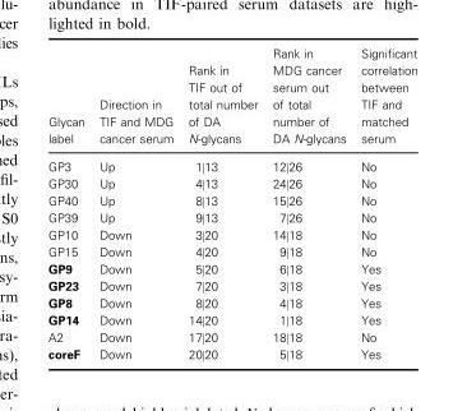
<table><thead><tr><td>Glycan label</td><td>Direction in TIF and MDG cancer serum</td><td>Rank in TIF out of total number of DA N-glycans</td><td>Rank in MDG cancer serum out of total number of DA N-glycans</td><td>Significant correlation between TIF and matched serum</td></tr></thead><tbody><tr><td>GP3</td><td>Up</td><td>1|13</td><td>12|26</td><td>No</td></tr><tr><td>GP30</td><td>Up</td><td>4|13</td><td>24|26</td><td>No</td></tr><tr><td>GP40</td><td>Up</td><td>8|13</td><td>15|26</td><td>No</td></tr><tr><td>GP39</td><td>Up</td><td>9|13</td><td>7|26</td><td>No</td></tr><tr><td>GP10</td><td>Down</td><td>3|20</td><td>14|18</td><td>No</td></tr><tr><td>GP15</td><td>Down</td><td>4|20</td><td>9|18</td><td>No</td></tr><tr><td>GP9</td><td>Down</td><td>5|20</td><td>6|18</td><td>Yes</td></tr><tr><td>GP23</td><td>Down</td><td>7|20</td><td>3|18</td><td>Yes</td></tr><tr><td>GP8</td><td>Down</td><td>8|20</td><td>4|18</td><td>Yes</td></tr><tr><td>GP14</td><td>Down</td><td>14|20</td><td>1|18</td><td>Yes</td></tr><tr><td>A2</td><td>Down</td><td>17|20</td><td>18|18</td><td>No</td></tr><tr><td>coreF</td><td>Down</td><td>20|20</td><td>5|18</td><td>Yes</td></tr></tbody></table>